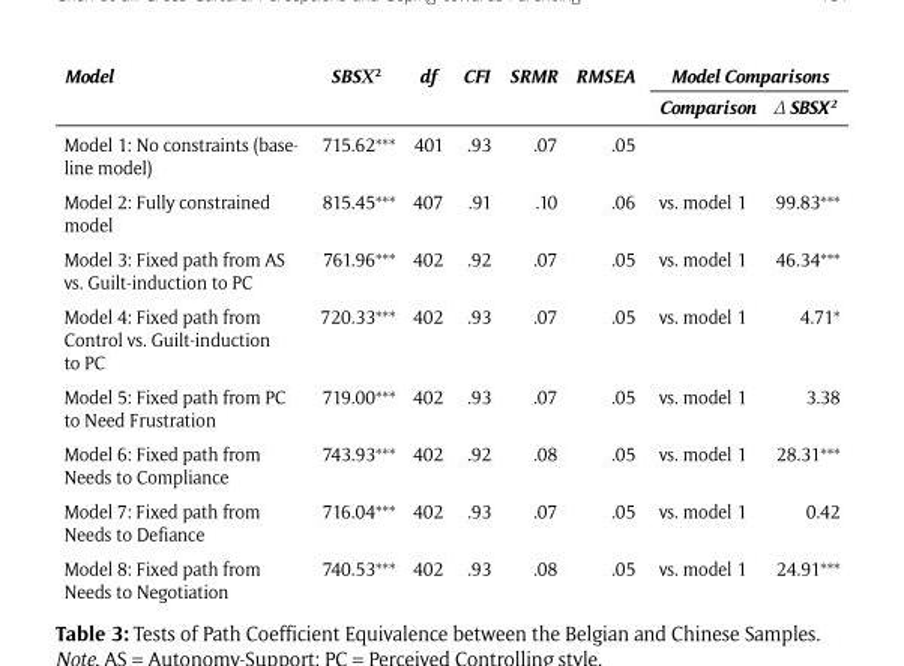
<table><thead><tr><td rowspan="2">Model</td><td rowspan="2">SBSX<sup>2</sup></td><td rowspan="2">df</td><td rowspan="2">CFI</td><td rowspan="2">SRMR</td><td rowspan="2">RMSEA</td><td colspan="2">Model Comparisons</td></tr><tr><td>Comparison</td><td>Δ SBSX<sup>2</sup></td></tr></thead><tbody><tr><td>Model 1: No constraints (base- line model)</td><td>715.62***</td><td>401</td><td>.93</td><td>.07</td><td>.05</td><td></td><td></td></tr><tr><td>Model 2: Fully constrained model</td><td>815.45***</td><td>407</td><td>.91</td><td>.10</td><td>.06</td><td>vs. model 1</td><td>99.83***</td></tr><tr><td>Model 3: Fixed path from AS vs. Guilt-induction to PC</td><td>761.96***</td><td>402</td><td>.92</td><td>.07</td><td>.05</td><td>vs. model 1</td><td>46.34***</td></tr><tr><td>Model 4: Fixed path from Control vs. Guilt-induction to PC</td><td>720.33***</td><td>402</td><td>.93</td><td>.07</td><td>.05</td><td>vs. model 1</td><td>4.71*</td></tr><tr><td>Model 5: Fixed path from PC to Need Frustration</td><td>719.00***</td><td>402</td><td>.93</td><td>.07</td><td>.05</td><td>vs. model 1</td><td>3.38</td></tr><tr><td>Model 6: Fixed path from Needs to Compliance</td><td>743.93***</td><td>402</td><td>.92</td><td>.08</td><td>.05</td><td>vs. model 1</td><td>28.31***</td></tr><tr><td>Model 7: Fixed path from Needs to Defiance</td><td>716.04***</td><td>402</td><td>.93</td><td>.07</td><td>.05</td><td>vs. model 1</td><td>0.42</td></tr><tr><td>Model 8: Fixed path from Needs to Negotiation</td><td>740.53***</td><td>402</td><td>.93</td><td>.08</td><td>.05</td><td>vs. model 1</td><td>24.91***</td></tr></tbody></table>